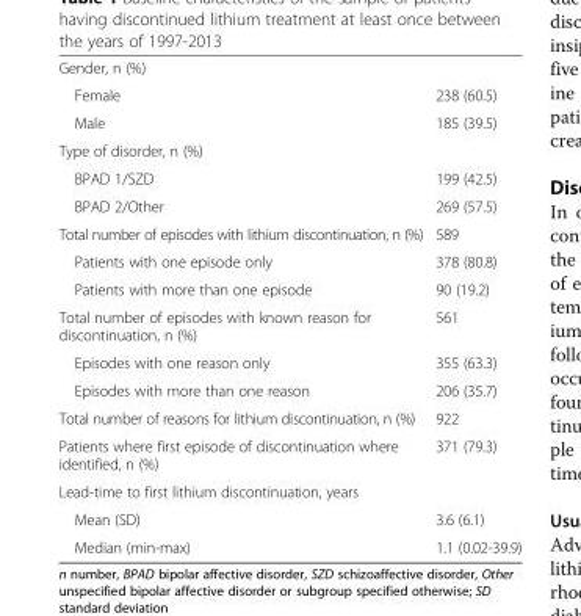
<table><tbody><tr><td colspan="2">Gender, n (%)</td></tr><tr><td>Female</td><td>238 (60.5)</td></tr><tr><td>Male</td><td>185 (39.5)</td></tr><tr><td colspan="2">Type of disorder, n (%)</td></tr><tr><td>BPAD 1/SZD</td><td>199 (42.5)</td></tr><tr><td>BPAD 2/Other</td><td>269 (57.5)</td></tr><tr><td>Total number of episodes with lithium discontinuation, n (%)</td><td>589</td></tr><tr><td>Patients with one episode only</td><td>378 (80.8)</td></tr><tr><td>Patients with more than one episode</td><td>90 (19.2)</td></tr><tr><td>Total number of episodes with known reason for discontinuation, n (%)</td><td>561</td></tr><tr><td>Episodes with one reason only</td><td>355 (63.3)</td></tr><tr><td>Episodes with more than one reason</td><td>206 (35.7)</td></tr><tr><td>Total number of reasons for lithium discontinuation, n (%)</td><td>922</td></tr><tr><td>Patients where first episode of discontinuation where identified, n (%)</td><td>371 (79.3)</td></tr><tr><td colspan="2">Lead-time to first lithium discontinuation, years</td></tr><tr><td>Mean (SD)</td><td>3.6 (6.1)</td></tr><tr><td>Median (min-max)</td><td>1.1 (0.02-39.9)</td></tr></tbody></table>